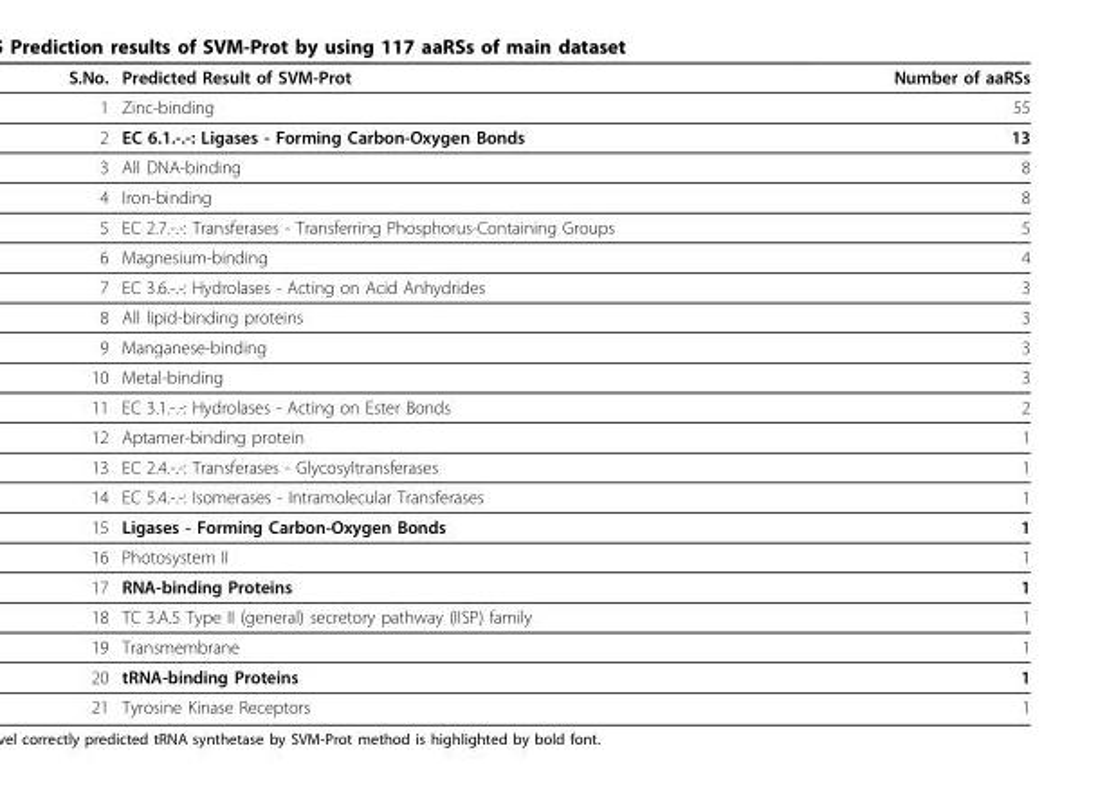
<table><thead><tr><td>S.No.</td><td>Predicted Result of SVM-Prot</td><td>Number of aaRSs</td></tr></thead><tbody><tr><td>1</td><td>Zinc-binding</td><td>55</td></tr><tr><td>2</td><td>EC 6.1.-.-: Ligases - Forming Carbon-Oxygen Bonds</td><td>13</td></tr><tr><td>3</td><td>All DNA-binding</td><td>8</td></tr><tr><td>4</td><td>Iron-binding</td><td>8</td></tr><tr><td>5</td><td>EC 2.7.-.-: Transferases - Transferring Phosphorus-Containing Groups</td><td>5</td></tr><tr><td>6</td><td>Magnesium-binding</td><td>4</td></tr><tr><td>7</td><td>EC 3.6.-.-: Hydrolases - Acting on Acid Anhydrides</td><td>3</td></tr><tr><td>8</td><td>All lipid-binding proteins</td><td>3</td></tr><tr><td>9</td><td>Manganese-binding</td><td>3</td></tr><tr><td>10</td><td>Metal-binding</td><td>3</td></tr><tr><td>11</td><td>EC 3.1.-.-: Hydrolases - Acting on Ester Bonds</td><td>2</td></tr><tr><td>12</td><td>Aptamer-binding protein</td><td>1</td></tr><tr><td>13</td><td>EC 2.4.-.-: Transferases - Glycosyltransferases</td><td>1</td></tr><tr><td>14</td><td>EC 5.4.-.-: Isomerases - Intramolecular Transferases</td><td>1</td></tr><tr><td>15</td><td>Ligases - Forming Carbon-Oxygen Bonds</td><td>1</td></tr><tr><td>16</td><td>Photosystem II</td><td>1</td></tr><tr><td>17</td><td>RNA-binding Proteins</td><td>1</td></tr><tr><td>18</td><td>TC 3.A.5 Type II (general) secretory pathway (IISP) family</td><td>1</td></tr><tr><td>19</td><td>Transmembrane</td><td>1</td></tr><tr><td>20</td><td>tRNA-binding Proteins</td><td>1</td></tr><tr><td>21</td><td>Tyrosine Kinase Receptors</td><td>1</td></tr></tbody></table>